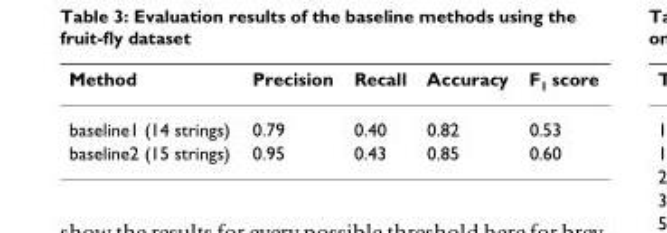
<table><thead><tr><td>Method</td><td>Precision</td><td>Recall</td><td>Accuracy</td><td>F<sub>1</sub> score</td></tr></thead><tbody><tr><td>baseline1 (14 strings)</td><td>0.79</td><td>0.40</td><td>0.82</td><td>0.53</td></tr><tr><td>baseline2 (15 strings)</td><td>0.95</td><td>0.43</td><td>0.85</td><td>0.60</td></tr></tbody></table>